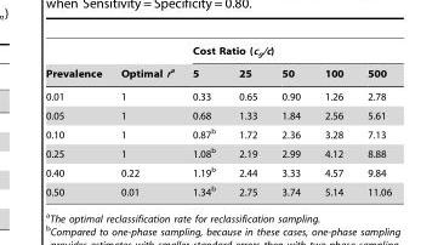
<table><thead><tr><td rowspan="2">Prevalence</td><td rowspan="2">Optimal ra</td><td colspan="5">Cost Ratio (c<sub>g</sub>/c)</td></tr><tr><td>5</td><td>25</td><td>50</td><td>100</td><td>500</td></tr></thead><tbody><tr><td>0.01</td><td>1</td><td>0.33</td><td>0.65</td><td>0.90</td><td>1.26</td><td>2.78</td></tr><tr><td>0.05</td><td>1</td><td>0.68</td><td>1.33</td><td>1.84</td><td>2.56</td><td>5.61</td></tr><tr><td>0.10</td><td>1</td><td>0.87<sup>b</sup></td><td>1.72</td><td>2.36</td><td>3.28</td><td>7.13</td></tr><tr><td>0.25</td><td>1</td><td>1.08<sup>b</sup></td><td>2.19</td><td>2.99</td><td>4.12</td><td>8.88</td></tr><tr><td>0.40</td><td>0.22</td><td>1.19<sup>b</sup></td><td>2.44</td><td>3.33</td><td>4.57</td><td>9.84</td></tr><tr><td>0.50</td><td>0.01</td><td>1.34<sup>b</sup></td><td>2.75</td><td>3.74</td><td>5.14</td><td>11.06</td></tr></tbody></table>